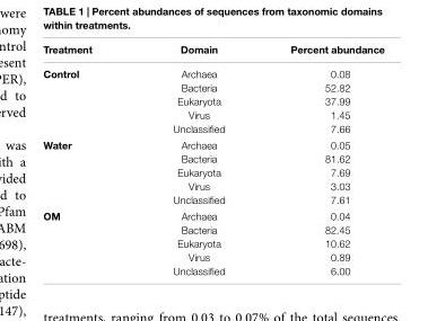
<table><thead><tr><td>Treatment</td><td>Domain</td><td>Percent abundance</td></tr></thead><tbody><tr><td>Control</td><td>Archaea Bacteria Eukaryota Virus Unclassified</td><td>0.08 52.82 37.99 1.45 7.66</td></tr><tr><td>Water</td><td>Archaea Bacteria Eukaryota Virus Unclassified</td><td>0.05 81.62 7.69 3.03 7.61</td></tr><tr><td>OM</td><td>Archaea Bacteria Eukaryota Virus Unclassified</td><td>0.04 82.45 10.62 0.89 6.00</td></tr></tbody></table>